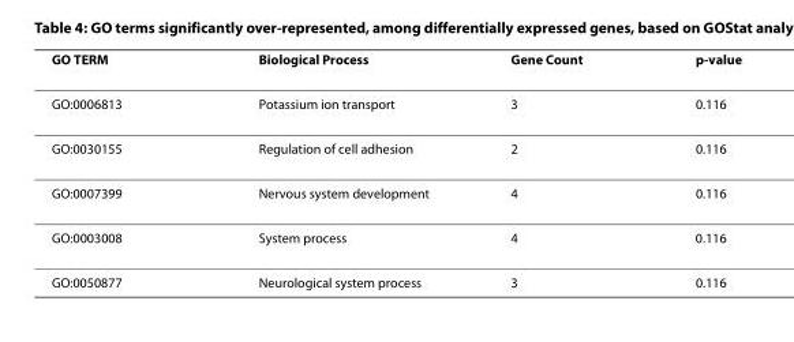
<table><thead><tr><td>GO TERM</td><td>Biological Process</td><td>Gene Count</td><td>p-value</td></tr></thead><tbody><tr><td>GO:0006813</td><td>Potassium ion transport</td><td>3</td><td>0.116</td></tr><tr><td>GO:0030155</td><td>Regulation of cell adhesion</td><td>2</td><td>0.116</td></tr><tr><td>GO:0007399</td><td>Nervous system development</td><td>4</td><td>0.116</td></tr><tr><td>GO:0003008</td><td>System process</td><td>4</td><td>0.116</td></tr><tr><td>GO:0050877</td><td>Neurological system process</td><td>3</td><td>0.116</td></tr></tbody></table>